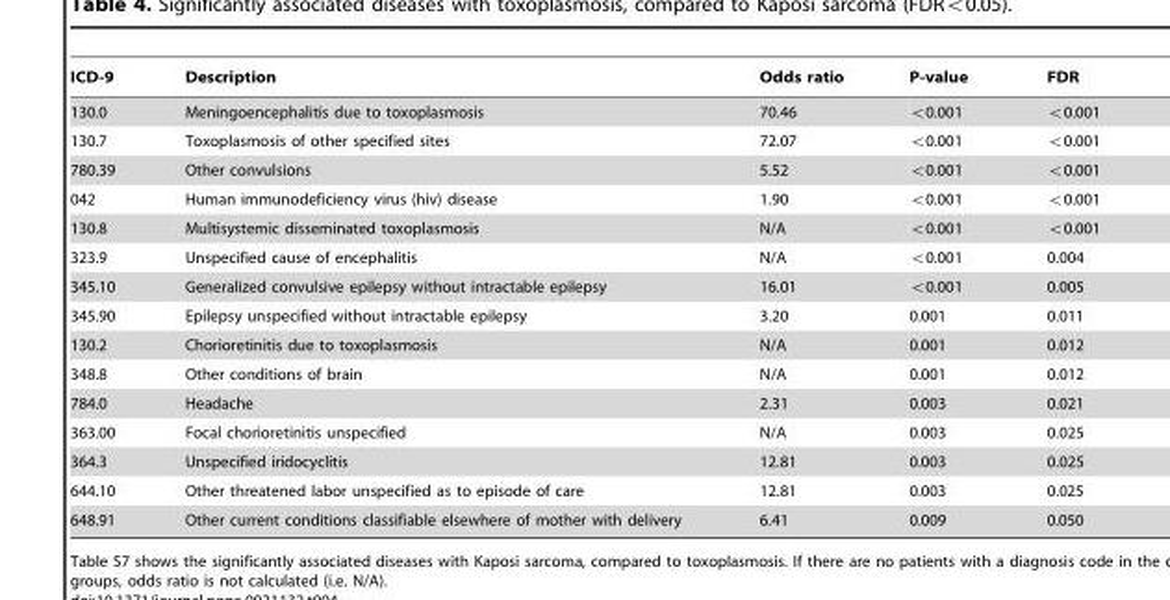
<table><thead><tr><td>ICD-9</td><td>Description</td><td>Odds ratio</td><td>P-value</td><td>FDR</td></tr></thead><tbody><tr><td>130.0</td><td>Meningoencephalitis due to toxoplasmosis</td><td>70.46</td><td>v0.001</td><td>v0.001</td></tr><tr><td>130.7</td><td>Toxoplasmosis of other specified sites</td><td>72.07</td><td>v0.001</td><td>v0.001</td></tr><tr><td>780.39</td><td>Other convulsions</td><td>5.52</td><td>v0.001</td><td>v0.001</td></tr><tr><td>042</td><td>Human immunodeficiency virus (hiv) disease</td><td>1.90</td><td>v0.001</td><td>v0.001</td></tr><tr><td>130.8</td><td>Multisystemic disseminated toxoplasmosis</td><td>N/A</td><td>v0.001</td><td>v0.001</td></tr><tr><td>323.9</td><td>Unspecified cause of encephalitis</td><td>N/A</td><td>v0.001</td><td>0.004</td></tr><tr><td>345.10</td><td>Generalized convulsive epilepsy without intractable epilepsy</td><td>16.01</td><td>v0.001</td><td>0.005</td></tr><tr><td>345.90</td><td>Epilepsy unspecified without intractable epilepsy</td><td>3.20</td><td>0.001</td><td>0.011</td></tr><tr><td>130.2</td><td>Chorioretinitis due to toxoplasmosis</td><td>N/A</td><td>0.001</td><td>0.012</td></tr><tr><td>348.8</td><td>Other conditions of brain</td><td>N/A</td><td>0.001</td><td>0.012</td></tr><tr><td>784.0</td><td>Headache</td><td>2.31</td><td>0.003</td><td>0.021</td></tr><tr><td>363.00</td><td>Focal chorioretinitis unspecified</td><td>N/A</td><td>0.003</td><td>0.025</td></tr><tr><td>364.3</td><td>Unspecified iridocyclitis</td><td>12.81</td><td>0.003</td><td>0.025</td></tr><tr><td>644.10</td><td>Other threatened labor unspecified as to episode of care</td><td>12.81</td><td>0.003</td><td>0.025</td></tr><tr><td>648.91</td><td>Other current conditions classifiable elsewhere of mother with delivery</td><td>6.41</td><td>0.009</td><td>0.050</td></tr></tbody></table>